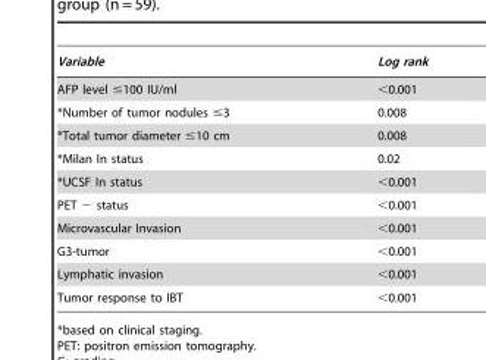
<table><thead><tr><td>Variable</td><td>Log rank</td></tr></thead><tbody><tr><td>AFP level ≤100 IU/ml</td><td>&lt;0.001</td></tr><tr><td>*Number of tumor nodules ≤3</td><td>0.008</td></tr><tr><td>*Total tumor diameter ≤10 cm</td><td>0.008</td></tr><tr><td>*Milan In status</td><td>0.02</td></tr><tr><td>*UCSF In status</td><td>&lt;0.001</td></tr><tr><td>PET − status</td><td>&lt;0.001</td></tr><tr><td>Microvascular Invasion</td><td>&lt;0.001</td></tr><tr><td>G3-tumor</td><td>&lt;0.001</td></tr><tr><td>Lymphatic invasion</td><td>&lt;0.001</td></tr><tr><td>Tumor response to IBT</td><td>&lt;0.001</td></tr></tbody></table>